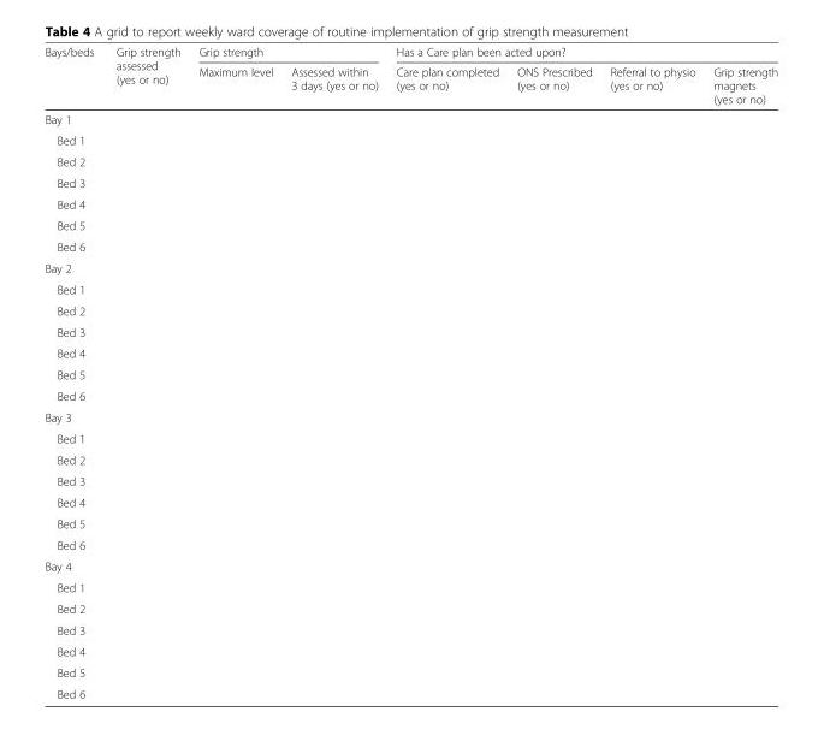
<table><thead><tr><td rowspan="2">Bays/beds</td><td rowspan="2">Grip strength assessed (yes or no)</td><td colspan="2">Grip strength</td><td colspan="4">Has a Care plan been acted upon?</td></tr><tr><td>Maximum level</td><td>Assessed within 3 days (yes or no)</td><td>Care plan completed (yes or no)</td><td>ONS Prescribed (yes or no)</td><td>Referral to physio (yes or no)</td><td>Grip strength magnets (yes or no)</td></tr></thead><tbody><tr><td colspan="8">Bay 1</td></tr><tr><td colspan="8">Bed 1</td></tr><tr><td colspan="8">Bed 2</td></tr><tr><td colspan="8">Bed 3</td></tr><tr><td colspan="8">Bed 4</td></tr><tr><td colspan="8">Bed 5</td></tr><tr><td colspan="8">Bed 6</td></tr><tr><td colspan="8">Bay 2</td></tr><tr><td colspan="8">Bed 1</td></tr><tr><td colspan="8">Bed 2</td></tr><tr><td colspan="8">Bed 3</td></tr><tr><td colspan="8">Bed 4</td></tr><tr><td colspan="8">Bed 5</td></tr><tr><td colspan="8">Bed 6</td></tr><tr><td colspan="8">Bay 3</td></tr><tr><td colspan="8">Bed 1</td></tr><tr><td colspan="8">Bed 2</td></tr><tr><td colspan="8">Bed 3</td></tr><tr><td colspan="8">Bed 4</td></tr><tr><td colspan="8">Bed 5</td></tr><tr><td colspan="8">Bed 6</td></tr><tr><td colspan="8">Bay 4</td></tr><tr><td colspan="8">Bed 1</td></tr><tr><td colspan="8">Bed 2</td></tr><tr><td colspan="8">Bed 3</td></tr><tr><td colspan="8">Bed 4</td></tr><tr><td colspan="8">Bed 5</td></tr><tr><td>Bed 6</td><td></td><td></td><td></td><td></td><td></td><td></td><td></td></tr></tbody></table>